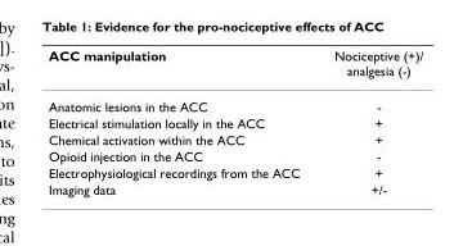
<table><thead><tr><td>ACC manipulation</td><td>Nociceptive (+)/ analgesia (-)</td></tr></thead><tbody><tr><td>Anatomic lesions in the ACC</td><td>-</td></tr><tr><td>Electrical stimulation locally in the ACC</td><td>+</td></tr><tr><td>Chemical activation within the ACC</td><td>+</td></tr><tr><td>Opioid injection in the ACC</td><td>-</td></tr><tr><td>Electrophysiological recordings from the ACC</td><td>+</td></tr><tr><td>Imaging data</td><td>+/-</td></tr></tbody></table>